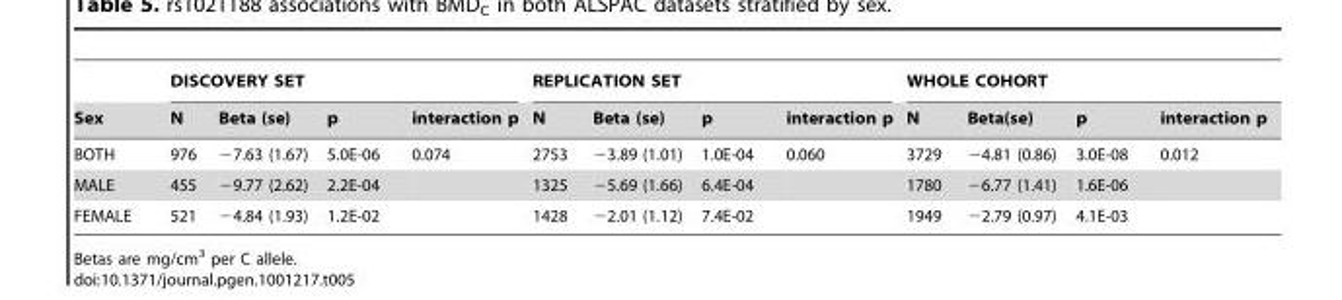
<table><thead><tr><td rowspan="2">Sex</td><td colspan="4">DISCOVERY SET</td><td colspan="4">REPLICATION SET</td><td colspan="4">WHOLE COHORT</td></tr><tr><td>N</td><td>Beta (se)</td><td>p</td><td>interaction p</td><td>N</td><td>Beta (se)</td><td>p</td><td>interaction p</td><td>N</td><td>Beta(se)</td><td>p</td><td>interaction p</td></tr></thead><tbody><tr><td>BOTH</td><td>976</td><td>−7.63 (1.67)</td><td>5.0E-06</td><td>0.074</td><td>2753</td><td>−3.89 (1.01)</td><td>1.0E-04</td><td>0.060</td><td>3729</td><td>−4.81 (0.86)</td><td>3.0E-08</td><td>0.012</td></tr><tr><td>MALE</td><td>455</td><td>−9.77 (2.62)</td><td>2.2E-04</td><td></td><td>1325</td><td>−5.69 (1.66)</td><td>6.4E-04</td><td></td><td>1780</td><td>−6.77 (1.41)</td><td>1.6E-06</td><td></td></tr><tr><td>FEMALE</td><td>521</td><td>−4.84 (1.93)</td><td>1.2E-02</td><td></td><td>1428</td><td>−2.01 (1.12)</td><td>7.4E-02</td><td></td><td>1949</td><td>−2.79 (0.97)</td><td>4.1E-03</td><td></td></tr></tbody></table>